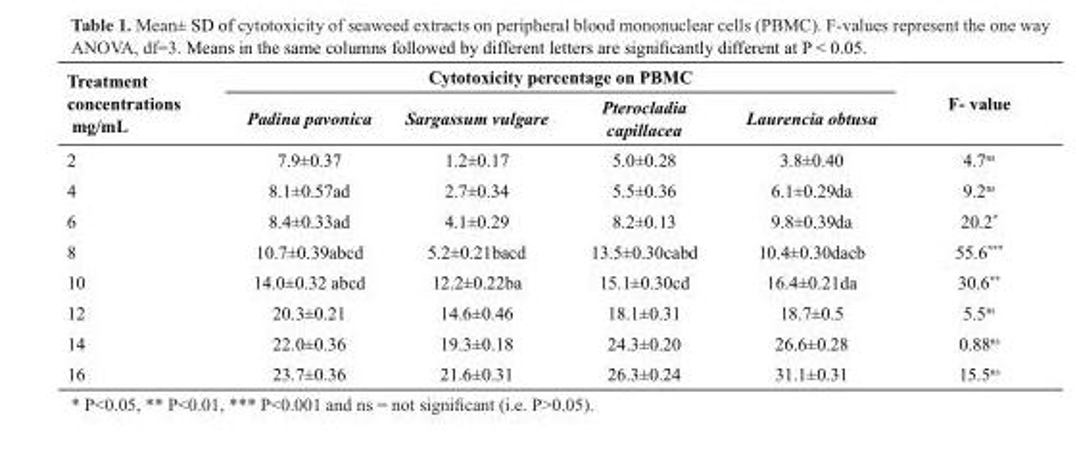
<table><thead><tr><td rowspan="2">Treatment concentrations mg/mL</td><td colspan="4">Cytotoxicity percentage on PBMC</td><td rowspan="2">F- value</td></tr><tr><td>Padina pavonica</td><td>Sargassum vulgare</td><td>Pterocladia capillacea</td><td>Laurencia obtusa</td></tr></thead><tbody><tr><td>2</td><td>7.9±0.37</td><td>1.2±0.17</td><td>5.0±0.28</td><td>3.8±0.40</td><td>4.7<sup>ns</sup></td></tr><tr><td>4</td><td>8.1±0.57ad</td><td>2.7±0.34</td><td>5.5±0.36</td><td>6.1±0.29da</td><td>9.2<sup>ns</sup></td></tr><tr><td>6</td><td>8.4±0.33ad</td><td>4.1±0.29</td><td>8.2±0.13</td><td>9.8±0.39da</td><td>20.2*</td></tr><tr><td>8</td><td>10.7±0.39abcd</td><td>5.2±0.21bacd</td><td>13.5±0.30cabd</td><td>10.4±0.30dacb</td><td>55.6***</td></tr><tr><td>10</td><td>14.0±0.32 abcd</td><td>12.2±0.22ba</td><td>15.1±0.30cd</td><td>16.4±0.21da</td><td>30.6**</td></tr><tr><td>12</td><td>20.3±0.21</td><td>14.6±0.46</td><td>18.1±0.31</td><td>18.7±0.5</td><td>5.5<sup>ns</sup></td></tr><tr><td>14</td><td>22.0±0.36</td><td>19.3±0.18</td><td>24.3±0.20</td><td>26.6±0.28</td><td>0.88<sup>ns</sup></td></tr><tr><td>16</td><td>23.7±0.36</td><td>21.6±0.31</td><td>26.3±0.24</td><td>31.1±0.31</td><td>15.5<sup>ns</sup></td></tr></tbody></table>